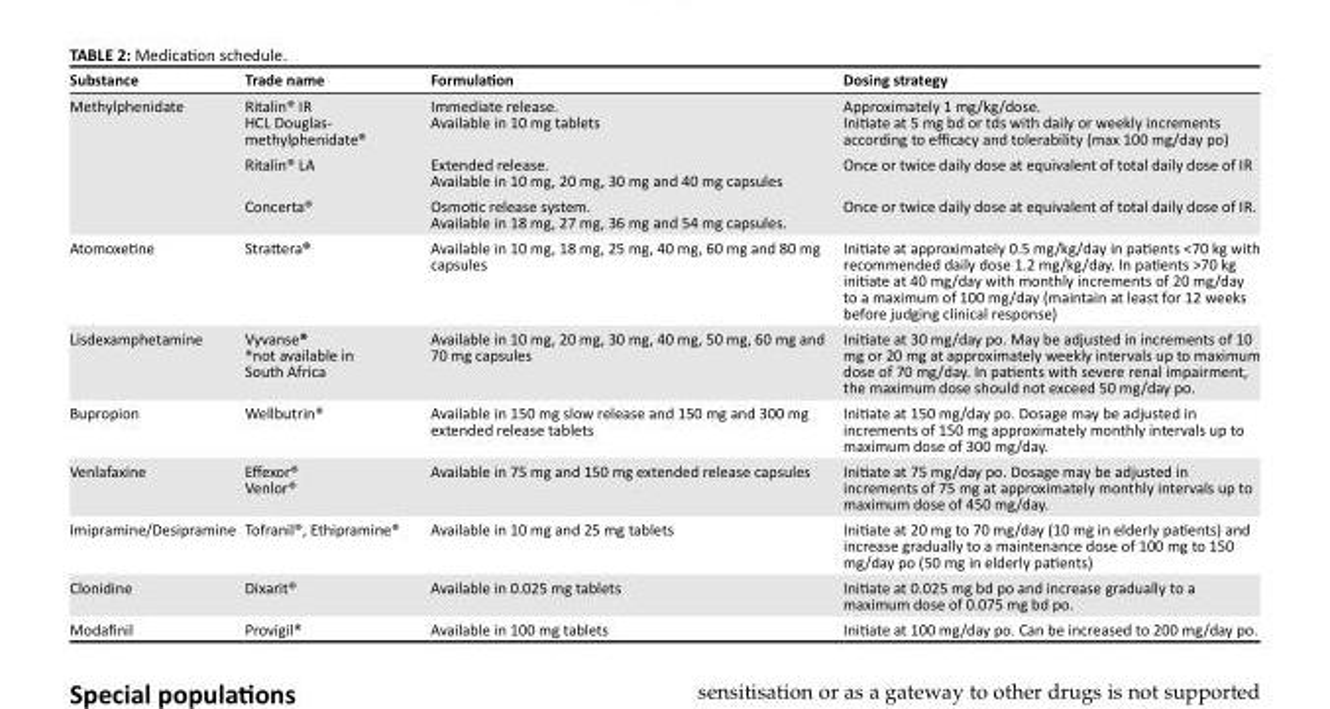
<table><thead><tr><td>Substance</td><td>Trade name</td><td>Formulation</td><td>Dosing strategy</td></tr></thead><tbody><tr><td rowspan="3">Methylphenidate</td><td>Ritalin<sup>®</sup> IR HCL Douglas- methylphenidate<sup>®</sup></td><td>Immediate release. Available in 10 mg tablets</td><td>Approximately 1 mg/kg/dose. Initiate at 5 mg bd or tds with daily or weekly increments according to efficacy and tolerability (max 100 mg/day po)</td></tr><tr><td>Ritalin<sup>®</sup> LA</td><td>Extended release. Available in 10 mg, 20 mg, 30 mg and 40 mg capsules</td><td>Once or twice daily dose at equivalent of total daily dose of IR</td></tr><tr><td>Concerta<sup>®</sup></td><td>Osmotic release system. Available in 18 mg, 27 mg, 36 mg and 54 mg capsules.</td><td>Once or twice daily dose at equivalent of total daily dose of IR.</td></tr><tr><td>Atomoxetine</td><td>Strattera<sup>®</sup></td><td>Available in 10 mg, 18 mg, 25 mg, 40 mg, 60 mg and 80 mg capsules</td><td>Initiate at approximately 0.5 mg/kg/day in patients &lt;70 kg with recommended daily dose 1.2 mg/kg/day. In patients &gt;70 kg initiate at 40 mg/day with monthly increments of 20 mg/day to a maximum of 100 mg/day (maintain at least for 12 weeks before judging clinical response)</td></tr><tr><td>Lisdexamphetamine</td><td>Vyvanse<sup>®</sup> *not available in South Africa</td><td>Available in 10 mg, 20 mg, 30 mg, 40 mg, 50 mg, 60 mg and 70 mg capsules</td><td>Initiate at 30 mg/day po. May be adjusted in increments of 10 mg or 20 mg at approximately weekly intervals up to maximum dose of 70 mg/day. In patients with severe renal impairment, the maximum dose should not exceed 50 mg/day po.</td></tr><tr><td>Bupropion</td><td>Wellbutrin<sup>®</sup></td><td>Available in 150 mg slow release and 150 mg and 300 mg extended release tablets</td><td>Initiate at 150 mg/day po. Dosage may be adjusted in increments of 150 mg approximately monthly intervals up to maximum dose of 300 mg/day.</td></tr><tr><td>Venlafaxine</td><td>Effexor<sup>®</sup> Venlor<sup>®</sup></td><td>Available in 75 mg and 150 mg extended release capsules</td><td>Initiate at 75 mg/day po. Dosage may be adjusted in increments of 75 mg at approximately monthly intervals up to maximum dose of 450 mg/day.</td></tr><tr><td>Imipramine/Desipramine</td><td>Tofranil<sup>®</sup>, Ethipramine<sup>®</sup></td><td>Available in 10 mg and 25 mg tablets</td><td>Initiate at 20 mg to 70 mg/day (10 mg in elderly patients) and increase gradually to a maintenance dose of 100 mg to 150 mg/day po (50 mg in elderly patients)</td></tr><tr><td>Clonidine</td><td>Dixarit<sup>®</sup></td><td>Available in 0.025 mg tablets</td><td>Initiate at 0.025 mg bd po and increase gradually to a maximum dose of 0.075 mg bd po.</td></tr><tr><td>Modafinil</td><td>Provigil<sup>®</sup></td><td>Available in 100 mg tablets</td><td>Initiate at 100 mg/day po. Can be increased to 200 mg/day po.</td></tr></tbody></table>